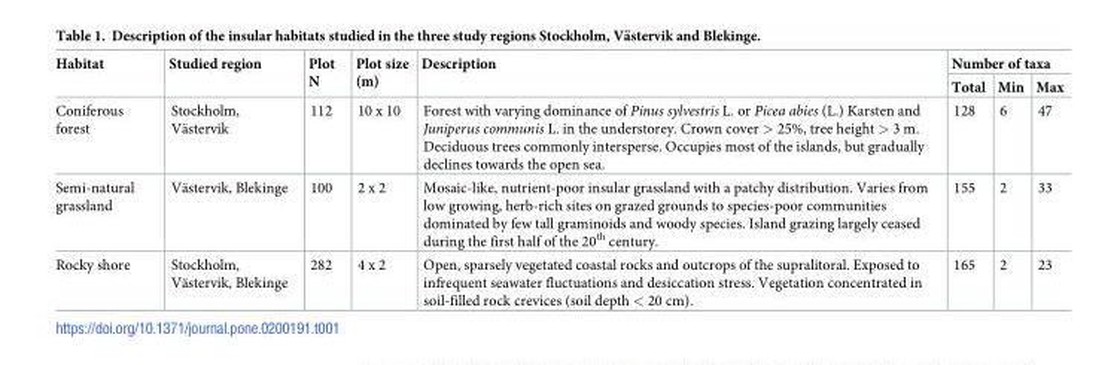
<table><thead><tr><td rowspan="2">Habitat</td><td rowspan="2">Studied region</td><td rowspan="2">Plot N</td><td rowspan="2">Plot size (m)</td><td rowspan="2">Description</td><td colspan="3">Number of taxa</td></tr><tr><td>Total</td><td>Min</td><td>Max</td></tr></thead><tbody><tr><td>Coniferous forest</td><td>Stockholm, Va¨stervik</td><td>112</td><td>10 x 10</td><td>Forest with varying dominance of Pinus sylvestris L. or Picea abies (L.) Karsten and Juniperus communis L. in the understorey. Crown cover &gt; 25%, tree height &gt; 3 m. Deciduous trees commonly intersperse. Occupies most of the islands, but gradually declines towards the open sea.</td><td>128</td><td>6</td><td>47</td></tr><tr><td>Semi-natural grassland</td><td>Va¨stervik, Blekinge</td><td>100</td><td>2 x 2</td><td>Mosaic-like, nutrient-poor insular grassland with a patchy distribution. Varies from low growing, herb-rich sites on grazed grounds to species-poor communities dominated by few tall graminoids and woody species. Island grazing largely ceased during the first half of the 20<sup>th</sup> century.</td><td>155</td><td>2</td><td>33</td></tr><tr><td>Rocky shore</td><td>Stockholm, Va¨stervik, Blekinge</td><td>282</td><td>4 x 2</td><td>Open, sparsely vegetated coastal rocks and outcrops of the supralitoral. Exposed to infrequent seawater fluctuations and desiccation stress. Vegetation concentrated in soil-filled rock crevices (soil depth &lt; 20 cm).</td><td>165</td><td>2</td><td>23</td></tr></tbody></table>